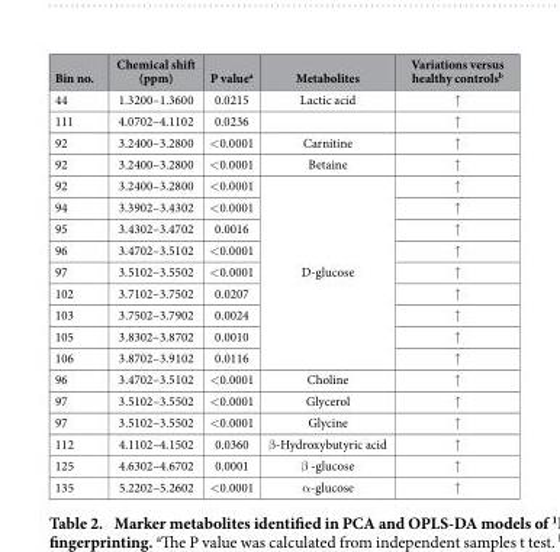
<table><thead><tr><td>Bin no.</td><td>Chemical shift (ppm)</td><td>P value<sup>a</sup></td><td>Metabolites</td><td>Variations versus healthy controls<sup>b</sup></td></tr></thead><tbody><tr><td>44</td><td>1.3200–1.3600</td><td>0.0215</td><td>Lactic acid</td><td>↑</td></tr><tr><td>111</td><td>4.0702–4.1102</td><td>0.0236</td><td></td><td>↑</td></tr><tr><td>92</td><td>3.2400–3.2800</td><td>&lt; 0.0001</td><td>Carnitine</td><td>↑</td></tr><tr><td>92</td><td>3.2400–3.2800</td><td>&lt; 0.0001</td><td>Betaine</td><td>↑</td></tr><tr><td>92</td><td>3.2400–3.2800</td><td>&lt; 0.0001</td><td rowspan="9">D-glucose</td><td>↑</td></tr><tr><td>94</td><td>3.3902–3.4302</td><td>&lt; 0.0001</td><td>↑</td></tr><tr><td>95</td><td>3.4302–3.4702</td><td>0.0016</td><td>↑</td></tr><tr><td>96</td><td>3.4702–3.5102</td><td>&lt; 0.0001</td><td>↑</td></tr><tr><td>97</td><td>3.5102–3.5502</td><td>&lt; 0.0001</td><td>↑</td></tr><tr><td>102</td><td>3.7102–3.7502</td><td>0.0207</td><td>↑</td></tr><tr><td>103</td><td>3.7502–3.7902</td><td>0.0024</td><td>↑</td></tr><tr><td>105</td><td>3.8302–3.8702</td><td>0.0010</td><td>↑</td></tr><tr><td>106</td><td>3.8702–3.9102</td><td>0.0116</td><td>↑</td></tr><tr><td>96</td><td>3.4702–3.5102</td><td>&lt; 0.0001</td><td>Choline</td><td>↑</td></tr><tr><td>97</td><td>3.5102–3.5502</td><td>&lt; 0.0001</td><td>Glycerol</td><td>↑</td></tr><tr><td>97</td><td>3.5102–3.5502</td><td>&lt; 0.0001</td><td>Glycine</td><td>↑</td></tr><tr><td>112</td><td>4.1102–4.1502</td><td>0.0360</td><td>β -Hydroxybutyric acid</td><td>↑</td></tr><tr><td>125</td><td>4.6302–4.6702</td><td>0.0001</td><td>β -glucose</td><td>↑</td></tr><tr><td>135</td><td>5.2202–5.2602</td><td>&lt; 0.0001</td><td>α -glucose</td><td>↑</td></tr></tbody></table>